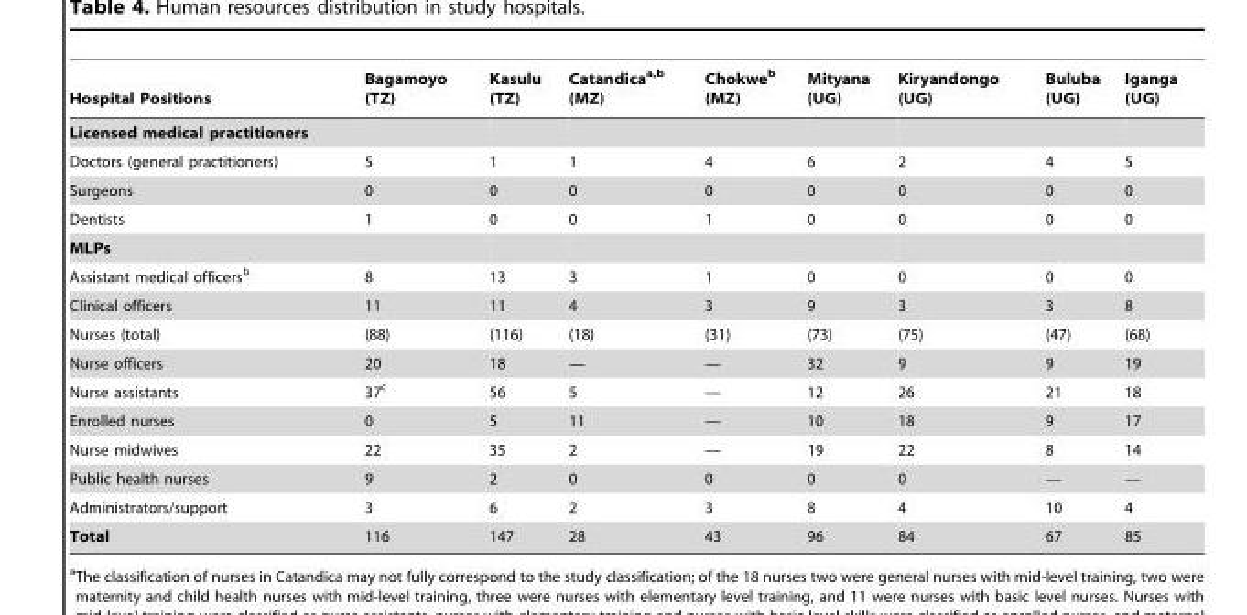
<table><thead><tr><td>Hospital Positions</td><td>Bagamoyo (TZ)</td><td>Kasulu (TZ)</td><td>Catandicaa,b (MZ)</td><td>Chokwe<sup>b</sup> (MZ)</td><td>Mityana (UG)</td><td>Kiryandongo (UG)</td><td>Buluba (UG)</td><td>Iganga (UG)</td></tr></thead><tbody><tr><td colspan="9">Licensed medical practitioners</td></tr><tr><td>Doctors (general practitioners)</td><td>5</td><td>1</td><td>1</td><td>4</td><td>6</td><td>2</td><td>4</td><td>5</td></tr><tr><td>Surgeons</td><td>0</td><td>0</td><td>0</td><td>0</td><td>0</td><td>0</td><td>0</td><td>0</td></tr><tr><td>Dentists</td><td>1</td><td>0</td><td>0</td><td>1</td><td>0</td><td>0</td><td>0</td><td>0</td></tr><tr><td colspan="9">MLPs</td></tr><tr><td>Assistant medical officers<sup>b</sup></td><td>8</td><td>13</td><td>3</td><td>1</td><td>0</td><td>0</td><td>0</td><td>0</td></tr><tr><td>Clinical officers</td><td>11</td><td>11</td><td>4</td><td>3</td><td>9</td><td>3</td><td>3</td><td>8</td></tr><tr><td>Nurses (total)</td><td>(88)</td><td>(116)</td><td>(18)</td><td>(31)</td><td>(73)</td><td>(75)</td><td>(47)</td><td>(68)</td></tr><tr><td>Nurse officers</td><td>20</td><td>18</td><td>—</td><td>—</td><td>32</td><td>9</td><td>9</td><td>19</td></tr><tr><td>Nurse assistants</td><td>37<sup>c</sup></td><td>56</td><td>5</td><td>—</td><td>12</td><td>26</td><td>21</td><td>18</td></tr><tr><td>Enrolled nurses</td><td>0</td><td>5</td><td>11</td><td>—</td><td>10</td><td>18</td><td>9</td><td>17</td></tr><tr><td>Nurse midwives</td><td>22</td><td>35</td><td>2</td><td>—</td><td>19</td><td>22</td><td>8</td><td>14</td></tr><tr><td>Public health nurses</td><td>9</td><td>2</td><td>0</td><td>0</td><td>0</td><td>0</td><td>—</td><td>—</td></tr><tr><td>Administrators/support</td><td>3</td><td>6</td><td>2</td><td>3</td><td>8</td><td>4</td><td>10</td><td>4</td></tr><tr><td>Total</td><td>116</td><td>147</td><td>28</td><td>43</td><td>96</td><td>84</td><td>67</td><td>85</td></tr></tbody></table>